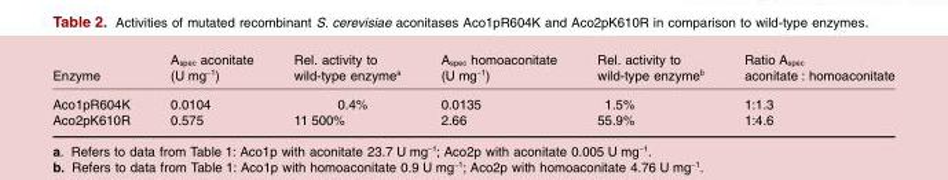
<table><thead><tr><td>Enzyme</td><td>A<sub>spec</sub> aconitate (U mg<sup>-1</sup>)</td><td>Rel. activity to wild-type enzyme<sup>a</sup></td><td>A<sub>spec</sub> homoaconitate (U mg<sup>-1</sup>)</td><td>Rel. activity to wild-type enzyme<sup>b</sup></td><td>Ratio A<sub>spec</sub> aconitate : homoaconitate</td></tr></thead><tbody><tr><td>Aco1pR604K</td><td>0.0104</td><td>0.4%</td><td>0.0135</td><td>1.5%</td><td>1:1.3</td></tr><tr><td>Aco2pK610R</td><td>0.575</td><td>11 500%</td><td>2.66</td><td>55.9%</td><td>1:4.6</td></tr></tbody></table>